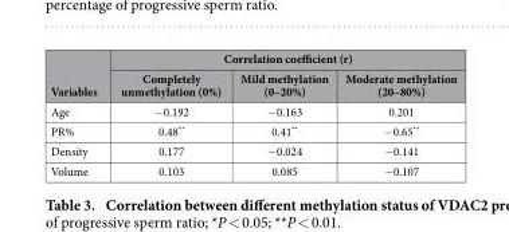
<table><thead><tr><td rowspan="2">Variables</td><td colspan="3">Correlation coefficient (r)</td></tr><tr><td>Completely unmethylation (0%)</td><td>Mild methylation (0–20%)</td><td>Moderate methylation (20–80%)</td></tr></thead><tbody><tr><td>Age</td><td>− 0.192</td><td>− 0.163</td><td>0.201</td></tr><tr><td>PR%</td><td>0.48**</td><td>0.41**</td><td>− 0.65**</td></tr><tr><td>Density</td><td>0.177</td><td>− 0.024</td><td>− 0.141</td></tr><tr><td>Volume</td><td>0.103</td><td>0.085</td><td>− 0.107</td></tr></tbody></table>